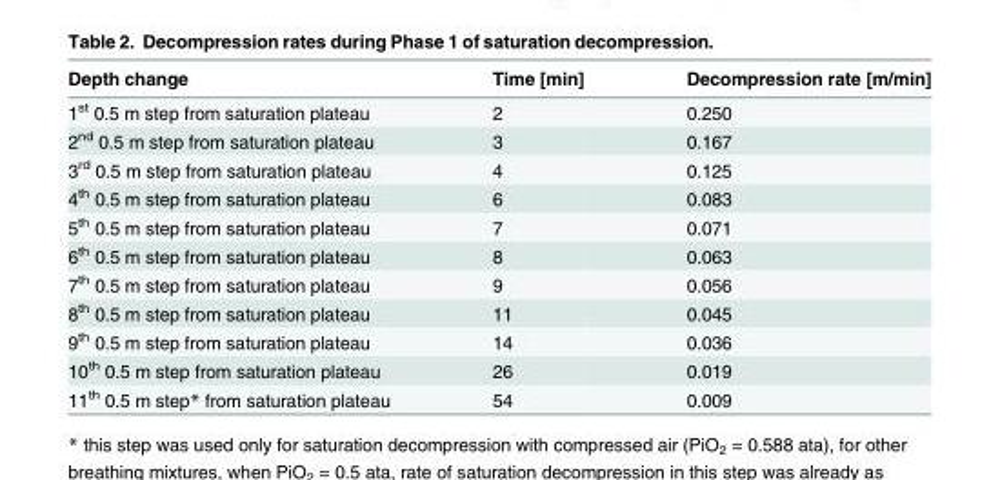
<table><thead><tr><td>Depth change</td><td>Time [min]</td><td>Decompression rate [m/min]</td></tr></thead><tbody><tr><td>1<sup>st</sup> 0.5 m step from saturation plateau</td><td>2</td><td>0.250</td></tr><tr><td>2<sup>nd</sup> 0.5 m step from saturation plateau</td><td>3</td><td>0.167</td></tr><tr><td>3<sup>rd</sup> 0.5 m step from saturation plateau</td><td>4</td><td>0.125</td></tr><tr><td>4<sup>th</sup> 0.5 m step from saturation plateau</td><td>6</td><td>0.083</td></tr><tr><td>5<sup>th</sup> 0.5 m step from saturation plateau</td><td>7</td><td>0.071</td></tr><tr><td>6<sup>th</sup> 0.5 m step from saturation plateau</td><td>8</td><td>0.063</td></tr><tr><td>7<sup>th</sup> 0.5 m step from saturation plateau</td><td>9</td><td>0.056</td></tr><tr><td>8<sup>th</sup> 0.5 m step from saturation plateau</td><td>11</td><td>0.045</td></tr><tr><td>9<sup>th</sup> 0.5 m step from saturation plateau</td><td>14</td><td>0.036</td></tr><tr><td>10<sup>th</sup> 0.5 m step from saturation plateau</td><td>26</td><td>0.019</td></tr><tr><td>11<sup>th</sup> 0.5 m step* from saturation plateau</td><td>54</td><td>0.009</td></tr></tbody></table>